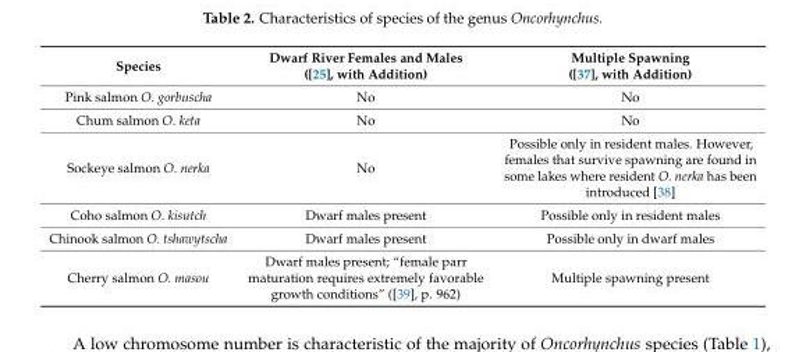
<table><thead><tr><td>Species</td><td>Dwarf River Females and Males ([25], with Addition)</td><td>Multiple Spawning ([37], with Addition)</td></tr></thead><tbody><tr><td>Pink salmon O. gorbuscha</td><td>No</td><td>No</td></tr><tr><td>Chum salmon O. keta</td><td>No</td><td>No</td></tr><tr><td>Sockeye salmon O. nerka</td><td>No</td><td>Possible only in resident males. However, females that survive spawning are found in some lakes where resident O. nerka has been introduced [38]</td></tr><tr><td>Coho salmon O. kisutch</td><td>Dwarf males present</td><td>Possible only in resident males</td></tr><tr><td>Chinook salmon O. tshawytscha</td><td>Dwarf males present</td><td>Possible only in dwarf males</td></tr><tr><td>Cherry salmon O. masou</td><td>Dwarf males present; “female parr maturation requires extremely favorable growth conditions” ([39], p. 962)</td><td>Multiple spawning present</td></tr></tbody></table>